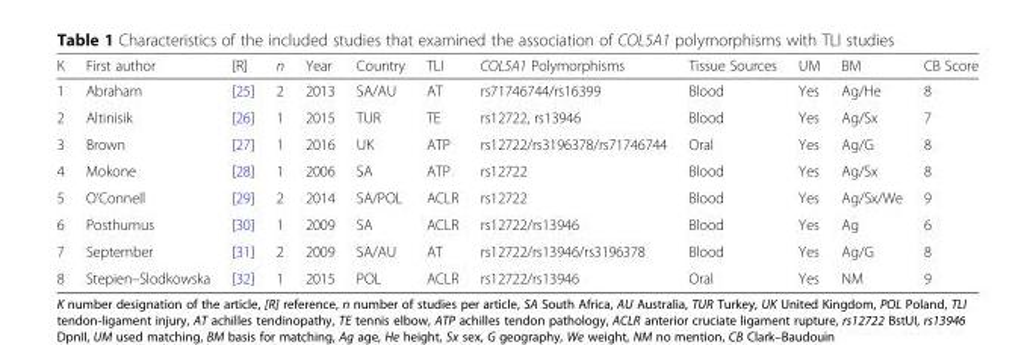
<table><thead><tr><td>K</td><td>First author</td><td>[R]</td><td>n</td><td>Year</td><td>Country</td><td>TLI</td><td>COL5A1 Polymorphisms</td><td>Tissue Sources</td><td>UM</td><td>BM</td><td>CB Score</td></tr></thead><tbody><tr><td>1</td><td>Abraham</td><td>[25]</td><td>2</td><td>2013</td><td>SA/AU</td><td>AT</td><td>rs71746744/rs16399</td><td>Blood</td><td>Yes</td><td>Ag/He</td><td>8</td></tr><tr><td>2</td><td>Altinisik</td><td>[26]</td><td>1</td><td>2015</td><td>TUR</td><td>TE</td><td>rs12722, rs13946</td><td>Blood</td><td>Yes</td><td>Ag/Sx</td><td>7</td></tr><tr><td>3</td><td>Brown</td><td>[27]</td><td>1</td><td>2016</td><td>UK</td><td>ATP</td><td>rs12722/rs3196378/rs71746744</td><td>Oral</td><td>Yes</td><td>Ag/G</td><td>8</td></tr><tr><td>4</td><td>Mokone</td><td>[28]</td><td>1</td><td>2006</td><td>SA</td><td>ATP</td><td>rs12722</td><td>Blood</td><td>Yes</td><td>Ag/Sx</td><td>8</td></tr><tr><td>5</td><td>O’Connell</td><td>[29]</td><td>2</td><td>2014</td><td>SA/POL</td><td>ACLR</td><td>rs12722</td><td>Blood</td><td>Yes</td><td>Ag/Sx/We</td><td>9</td></tr><tr><td>6</td><td>Posthumus</td><td>[30]</td><td>1</td><td>2009</td><td>SA</td><td>ACLR</td><td>rs12722/rs13946</td><td>Blood</td><td>Yes</td><td>Ag</td><td>6</td></tr><tr><td>7</td><td>September</td><td>[31]</td><td>2</td><td>2009</td><td>SA/AU</td><td>AT</td><td>rs12722/rs13946/rs3196378</td><td>Blood</td><td>Yes</td><td>Ag/G</td><td>8</td></tr><tr><td>8</td><td>Stepien–Slodkowska</td><td>[32]</td><td>1</td><td>2015</td><td>POL</td><td>ACLR</td><td>rs12722/rs13946</td><td>Oral</td><td>Yes</td><td>NM</td><td>9</td></tr></tbody></table>